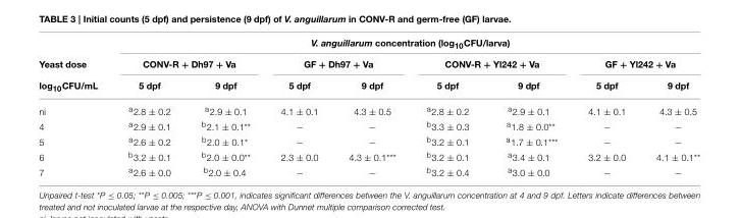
<table><thead><tr><td rowspan="3">Yeast dose log<sub>10</sub>CFU/mL</td><td colspan="8">V. anguillarum concentration (log<sub>10</sub>CFU/larva)</td></tr><tr><td colspan="2">CONV-R + Dh97 + Va</td><td colspan="2">GF + Dh97 + Va</td><td colspan="2">CONV-R + Yl242 + Va</td><td colspan="2">GF + Yl242 + Va</td></tr><tr><td>5 dpf</td><td>9 dpf</td><td>5 dpf</td><td>9 dpf</td><td>5 dpf</td><td>9 dpf</td><td>5 dpf</td><td>9 dpf</td></tr></thead><tbody><tr><td>ni</td><td><sup>a</sup>2.8 ± 0.2</td><td><sup>a</sup>2.9 ± 0.1</td><td>4.1 ± 0.1</td><td>4.3 ± 0.5</td><td><sup>a</sup>2.8 ± 0.2</td><td><sup>a</sup>2.9 ± 0.1</td><td>4.1 ± 0.1</td><td>4.3 ± 0.5</td></tr><tr><td>4</td><td><sup>a</sup>2.9 ± 0.1</td><td><sup>b</sup>2.1 ± 0.1**</td><td>−</td><td>−</td><td><sup>b</sup>3.3 ± 0.3</td><td><sup>a</sup>1.8 ± 0.0**</td><td>−</td><td>−</td></tr><tr><td>5</td><td><sup>a</sup>2.6 ± 0.2</td><td><sup>b</sup>2.0 ± 0.1*</td><td>−</td><td>−</td><td><sup>b</sup>3.2 ± 0.1</td><td><sup>a</sup>1.7 ± 0.1***</td><td>−</td><td>−</td></tr><tr><td>6</td><td><sup>b</sup>3.2 ± 0.1</td><td><sup>b</sup>2.0 ± 0.0**</td><td>2.3 ± 0.0</td><td>4.3 ± 0.1***</td><td><sup>b</sup>3.2 ± 0.1</td><td><sup>a</sup>3.4 ± 0.1</td><td>3.2 ± 0.0</td><td>4.1 ± 0.1**</td></tr><tr><td>7</td><td><sup>a</sup>2.6 ± 0.0</td><td><sup>b</sup>2.0 ± 0.4</td><td>−</td><td>−</td><td><sup>b</sup>3.2 ± 0.4</td><td><sup>a</sup>3.0 ± 0.0</td><td>−</td><td>−</td></tr></tbody></table>